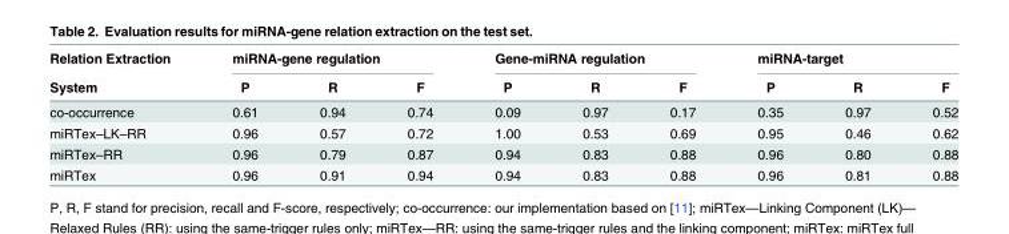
<table><thead><tr><td rowspan="2">Relation Extraction System</td><td colspan="3">miRNA-gene regulation</td><td colspan="3">Gene-miRNA regulation</td><td colspan="3">miRNA-target</td></tr><tr><td>P</td><td>R</td><td>F</td><td>P</td><td>R</td><td>F</td><td>P</td><td>R</td><td>F</td></tr></thead><tbody><tr><td>co-occurrence</td><td>0.61</td><td>0.94</td><td>0.74</td><td>0.09</td><td>0.97</td><td>0.17</td><td>0.35</td><td>0.97</td><td>0.52</td></tr><tr><td>miRTex–LK–RR</td><td>0.96</td><td>0.57</td><td>0.72</td><td>1.00</td><td>0.53</td><td>0.69</td><td>0.95</td><td>0.46</td><td>0.62</td></tr><tr><td>miRTex–RR</td><td>0.96</td><td>0.79</td><td>0.87</td><td>0.94</td><td>0.83</td><td>0.88</td><td>0.96</td><td>0.80</td><td>0.88</td></tr><tr><td>miRTex</td><td>0.96</td><td>0.91</td><td>0.94</td><td>0.94</td><td>0.83</td><td>0.88</td><td>0.96</td><td>0.81</td><td>0.88</td></tr></tbody></table>